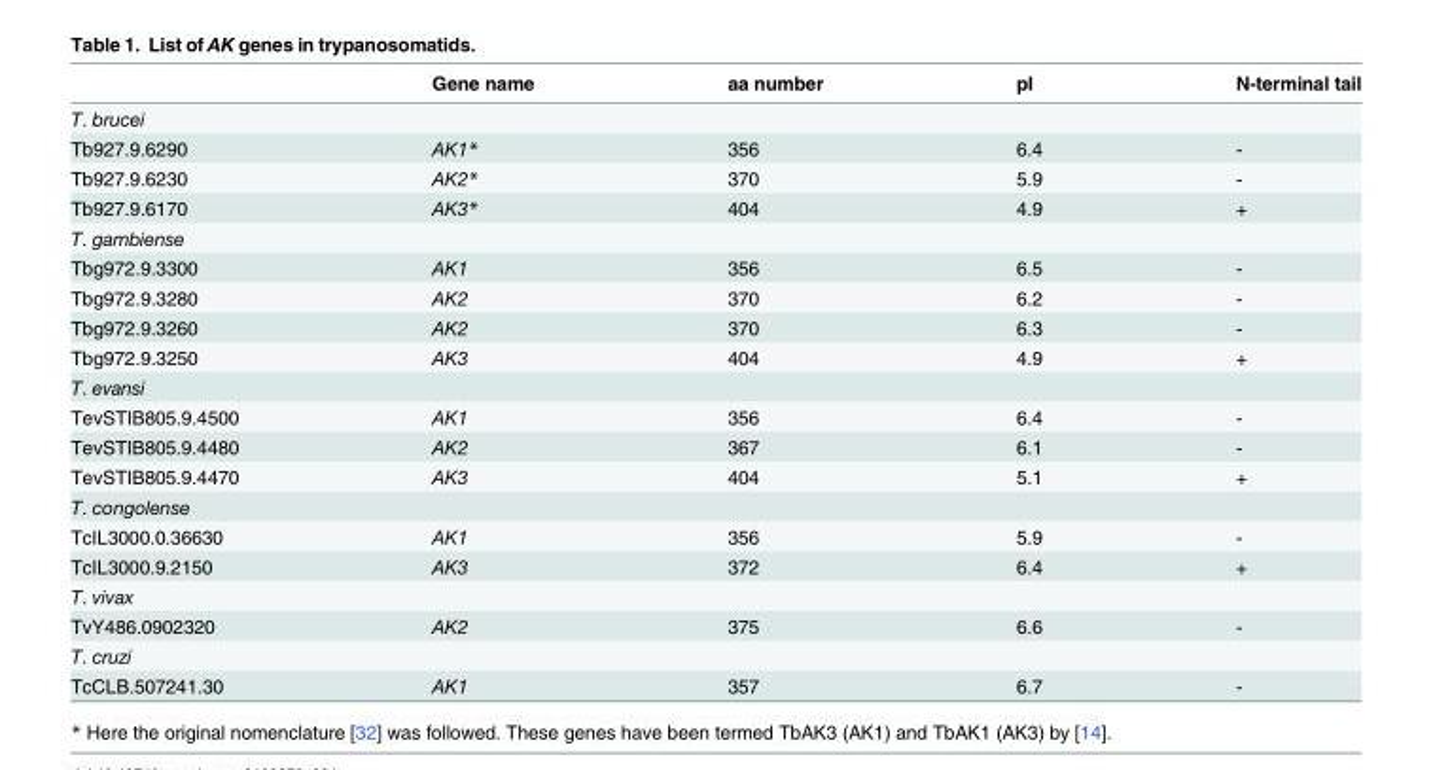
<table><thead><tr><td></td><td>Gene name</td><td>aa number</td><td>pI</td><td>N-terminal tail</td></tr></thead><tbody><tr><td colspan="5">T. brucei</td></tr><tr><td>Tb927.9.6290</td><td>AK1*</td><td>356</td><td>6.4</td><td>-</td></tr><tr><td>Tb927.9.6230</td><td>AK2*</td><td>370</td><td>5.9</td><td>-</td></tr><tr><td>Tb927.9.6170</td><td>AK3*</td><td>404</td><td>4.9</td><td>+</td></tr><tr><td colspan="5">T. gambiense</td></tr><tr><td>Tbg972.9.3300</td><td>AK1</td><td>356</td><td>6.5</td><td>-</td></tr><tr><td>Tbg972.9.3280</td><td>AK2</td><td>370</td><td>6.2</td><td>-</td></tr><tr><td>Tbg972.9.3260</td><td>AK2</td><td>370</td><td>6.3</td><td>-</td></tr><tr><td>Tbg972.9.3250</td><td>AK3</td><td>404</td><td>4.9</td><td>+</td></tr><tr><td colspan="5">T. evansi</td></tr><tr><td>TevSTIB805.9.4500</td><td>AK1</td><td>356</td><td>6.4</td><td>-</td></tr><tr><td>TevSTIB805.9.4480</td><td>AK2</td><td>367</td><td>6.1</td><td>-</td></tr><tr><td>TevSTIB805.9.4470</td><td>AK3</td><td>404</td><td>5.1</td><td>+</td></tr><tr><td colspan="5">T. congolense</td></tr><tr><td>TcIL3000.0.36630</td><td>AK1</td><td>356</td><td>5.9</td><td>-</td></tr><tr><td>TcIL3000.9.2150</td><td>AK3</td><td>372</td><td>6.4</td><td>+</td></tr><tr><td colspan="5">T. vivax</td></tr><tr><td>TvY486.0902320</td><td>AK2</td><td>375</td><td>6.6</td><td>-</td></tr><tr><td colspan="5">T. cruzi</td></tr><tr><td>TcCLB.507241.30</td><td>AK1</td><td>357</td><td>6.7</td><td>-</td></tr></tbody></table>